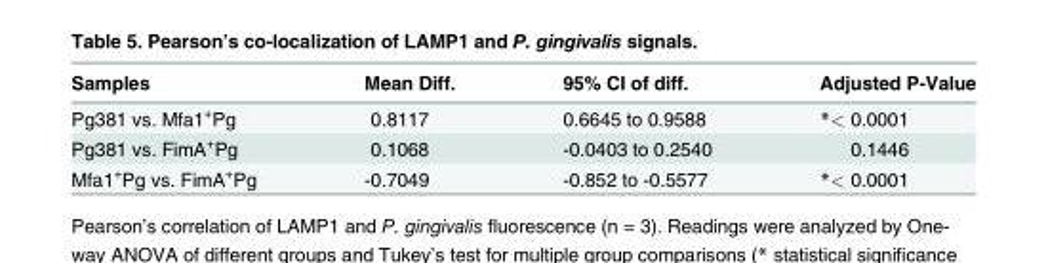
<table><thead><tr><td>Samples</td><td>Mean Diff.</td><td>95% CI of diff.</td><td>Adjusted P-Value</td></tr></thead><tbody><tr><td>Pg381 vs. Mfa1<sup>+</sup>Pg</td><td>0.8117</td><td>0.6645 to 0.9588</td><td>*&lt; 0.0001</td></tr><tr><td>Pg381 vs. FimA<sup>+</sup>Pg</td><td>0.1068</td><td>-0.0403 to 0.2540</td><td>0.1446</td></tr><tr><td>Mfa1<sup>+</sup>Pg vs. FimA<sup>+</sup>Pg</td><td>-0.7049</td><td>-0.852 to -0.5577</td><td>*&lt; 0.0001</td></tr></tbody></table>